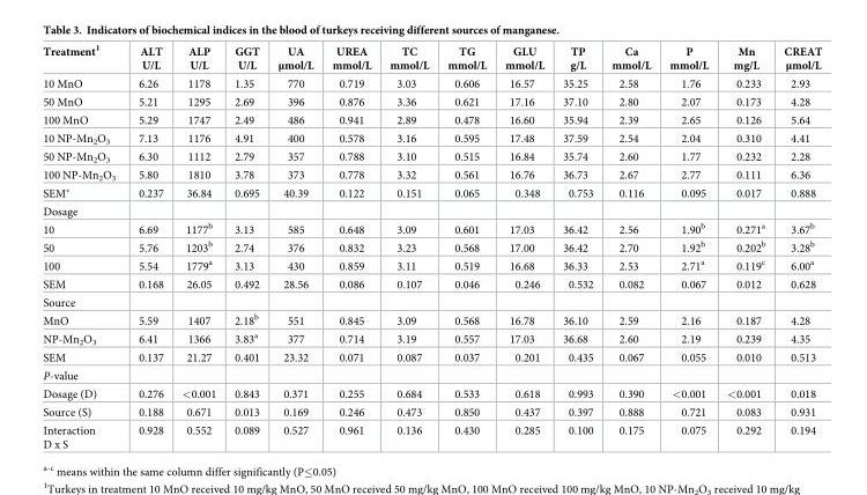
<table><thead><tr><td>Treatment<sup>1</sup></td><td>ALT U/L</td><td>ALP U/L</td><td>GGT U/L</td><td>UA μmol/L</td><td>UREA mmol/L</td><td>TC mmol/L</td><td>TG mmol/L</td><td>GLU mmol/L</td><td>TP g/L</td><td>Ca mmol/L</td><td>P mmol/L</td><td>Mn mg/L</td><td>CREAT μmol/L</td></tr></thead><tbody><tr><td>10 MnO</td><td>6.26</td><td>1178</td><td>1.35</td><td>770</td><td>0.719</td><td>3.03</td><td>0.606</td><td>16.57</td><td>35.25</td><td>2.58</td><td>1.76</td><td>0.233</td><td>2.93</td></tr><tr><td>50 MnO</td><td>5.21</td><td>1295</td><td>2.69</td><td>396</td><td>0.876</td><td>3.36</td><td>0.621</td><td>17.16</td><td>37.10</td><td>2.80</td><td>2.07</td><td>0.173</td><td>4.28</td></tr><tr><td>100 MnO</td><td>5.29</td><td>1747</td><td>2.49</td><td>486</td><td>0.941</td><td>2.89</td><td>0.478</td><td>16.60</td><td>35.94</td><td>2.39</td><td>2.65</td><td>0.126</td><td>5.64</td></tr><tr><td>10 NP-Mn<sub>2</sub>O<sub>3</sub></td><td>7.13</td><td>1176</td><td>4.91</td><td>400</td><td>0.578</td><td>3.16</td><td>0.595</td><td>17.48</td><td>37.59</td><td>2.54</td><td>2.04</td><td>0.310</td><td>4.41</td></tr><tr><td>50 NP-Mn<sub>2</sub>O<sub>3</sub></td><td>6.30</td><td>1112</td><td>2.79</td><td>357</td><td>0.788</td><td>3.10</td><td>0.515</td><td>16.84</td><td>35.74</td><td>2.60</td><td>1.77</td><td>0.232</td><td>2.28</td></tr><tr><td>100 NP-Mn<sub>2</sub>O<sub>3</sub></td><td>5.80</td><td>1810</td><td>3.78</td><td>373</td><td>0.778</td><td>3.32</td><td>0.561</td><td>16.76</td><td>36.73</td><td>2.67</td><td>2.77</td><td>0.111</td><td>6.36</td></tr><tr><td>SEM*</td><td>0.237</td><td>36.84</td><td>0.695</td><td>40.39</td><td>0.122</td><td>0.151</td><td>0.065</td><td>0.348</td><td>0.753</td><td>0.116</td><td>0.095</td><td>0.017</td><td>0.888</td></tr><tr><td colspan="14">Dosage</td></tr><tr><td>10</td><td>6.69</td><td>1177<sup>b</sup></td><td>3.13</td><td>585</td><td>0.648</td><td>3.09</td><td>0.601</td><td>17.03</td><td>36.42</td><td>2.56</td><td>1.90<sup>b</sup></td><td>0.271<sup>a</sup></td><td>3.67<sup>b</sup></td></tr><tr><td>50</td><td>5.76</td><td>1203<sup>b</sup></td><td>2.74</td><td>376</td><td>0.832</td><td>3.23</td><td>0.568</td><td>17.00</td><td>36.42</td><td>2.70</td><td>1.92<sup>b</sup></td><td>0.202<sup>b</sup></td><td>3.28<sup>b</sup></td></tr><tr><td>100</td><td>5.54</td><td>1779<sup>a</sup></td><td>3.13</td><td>430</td><td>0.859</td><td>3.11</td><td>0.519</td><td>16.68</td><td>36.33</td><td>2.53</td><td>2.71<sup>a</sup></td><td>0.119<sup>c</sup></td><td>6.00<sup>a</sup></td></tr><tr><td>SEM</td><td>0.168</td><td>26.05</td><td>0.492</td><td>28.56</td><td>0.086</td><td>0.107</td><td>0.046</td><td>0.246</td><td>0.532</td><td>0.082</td><td>0.067</td><td>0.012</td><td>0.628</td></tr><tr><td colspan="14">Source</td></tr><tr><td>MnO</td><td>5.59</td><td>1407</td><td>2.18<sup>b</sup></td><td>551</td><td>0.845</td><td>3.09</td><td>0.568</td><td>16.78</td><td>36.10</td><td>2.59</td><td>2.16</td><td>0.187</td><td>4.28</td></tr><tr><td>NP-Mn<sub>2</sub>O<sub>3</sub></td><td>6.41</td><td>1366</td><td>3.83<sup>a</sup></td><td>377</td><td>0.714</td><td>3.19</td><td>0.557</td><td>17.03</td><td>36.68</td><td>2.60</td><td>2.19</td><td>0.239</td><td>4.35</td></tr><tr><td>SEM</td><td>0.137</td><td>21.27</td><td>0.401</td><td>23.32</td><td>0.071</td><td>0.087</td><td>0.037</td><td>0.201</td><td>0.435</td><td>0.067</td><td>0.055</td><td>0.010</td><td>0.513</td></tr><tr><td colspan="14">P-value</td></tr><tr><td>Dosage (D)</td><td>0.276</td><td>&lt;0.001</td><td>0.843</td><td>0.371</td><td>0.255</td><td>0.684</td><td>0.533</td><td>0.618</td><td>0.993</td><td>0.390</td><td>&lt;0.001</td><td>&lt;0.001</td><td>0.018</td></tr><tr><td>Source (S)</td><td>0.188</td><td>0.671</td><td>0.013</td><td>0.169</td><td>0.246</td><td>0.473</td><td>0.850</td><td>0.437</td><td>0.397</td><td>0.888</td><td>0.721</td><td>0.083</td><td>0.931</td></tr><tr><td>Interaction D x S</td><td>0.928</td><td>0.552</td><td>0.089</td><td>0.527</td><td>0.961</td><td>0.136</td><td>0.430</td><td>0.285</td><td>0.100</td><td>0.175</td><td>0.075</td><td>0.292</td><td>0.194</td></tr></tbody></table>